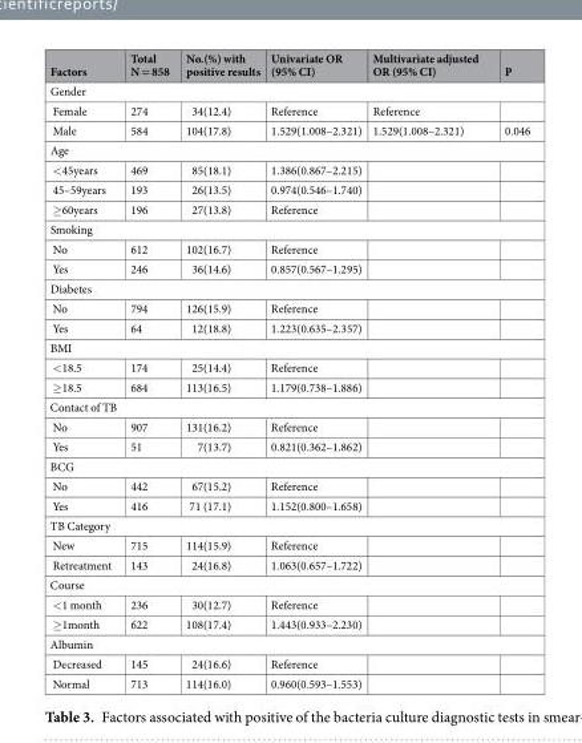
<table><thead><tr><td>Factors</td><td>Total N = 858</td><td>No.(%) with positive results</td><td>Univariate OR (95% CI)</td><td>Multivariate adjusted OR (95% CI)</td><td>P</td></tr></thead><tbody><tr><td colspan="6">Gender</td></tr><tr><td>Female</td><td>274</td><td>34(12.4)</td><td>Reference</td><td>Reference</td><td></td></tr><tr><td>Male</td><td>584</td><td>104(17.8)</td><td>1.529(1.008–2.321)</td><td>1.529(1.008–2.321)</td><td>0.046</td></tr><tr><td colspan="6">Age</td></tr><tr><td>&lt;45years</td><td>469</td><td>85(18.1)</td><td>1.386(0.867–2.215)</td><td></td><td></td></tr><tr><td>45–59years</td><td>193</td><td>26(13.5)</td><td>0.974(0.546–1.740)</td><td></td><td></td></tr><tr><td>≥60years</td><td>196</td><td>27(13.8)</td><td>Reference</td><td></td><td></td></tr><tr><td colspan="6">Smoking</td></tr><tr><td>No</td><td>612</td><td>102(16.7)</td><td>Reference</td><td></td><td></td></tr><tr><td>Yes</td><td>246</td><td>36(14.6)</td><td>0.857(0.567–1.295)</td><td></td><td></td></tr><tr><td colspan="6">Diabetes</td></tr><tr><td>No</td><td>794</td><td>126(15.9)</td><td>Reference</td><td></td><td></td></tr><tr><td>Yes</td><td>64</td><td>12(18.8)</td><td>1.223(0.635–2.357)</td><td></td><td></td></tr><tr><td colspan="6">BMI</td></tr><tr><td>&lt;18.5</td><td>174</td><td>25(14.4)</td><td>Reference</td><td></td><td></td></tr><tr><td>≥18.5</td><td>684</td><td>113(16.5)</td><td>1.179(0.738–1.886)</td><td></td><td></td></tr><tr><td colspan="6">Contact of TB</td></tr><tr><td>No</td><td>907</td><td>131(16.2)</td><td>Reference</td><td></td><td></td></tr><tr><td>Yes</td><td>51</td><td>7(13.7)</td><td>0.821(0.362–1.862)</td><td></td><td></td></tr><tr><td colspan="6">BCG</td></tr><tr><td>No</td><td>442</td><td>67(15.2)</td><td>Reference</td><td></td><td></td></tr><tr><td>Yes</td><td>416</td><td>71 (17.1)</td><td>1.152(0.800–1.658)</td><td></td><td></td></tr><tr><td colspan="6">TB Category</td></tr><tr><td>New</td><td>715</td><td>114(15.9)</td><td>Reference</td><td></td><td></td></tr><tr><td>Retreatment</td><td>143</td><td>24(16.8)</td><td>1.063(0.657–1.722)</td><td></td><td></td></tr><tr><td colspan="6">Course</td></tr><tr><td>&lt;1 month</td><td>236</td><td>30(12.7)</td><td>Reference</td><td></td><td></td></tr><tr><td>≥1month</td><td>622</td><td>108(17.4)</td><td>1.443(0.933–2.230)</td><td></td><td></td></tr><tr><td colspan="6">Albumin</td></tr><tr><td>Decreased</td><td>145</td><td>24(16.6)</td><td>Reference</td><td></td><td></td></tr><tr><td>Normal</td><td>713</td><td>114(16.0)</td><td>0.960(0.593–1.553)</td><td></td><td></td></tr></tbody></table>